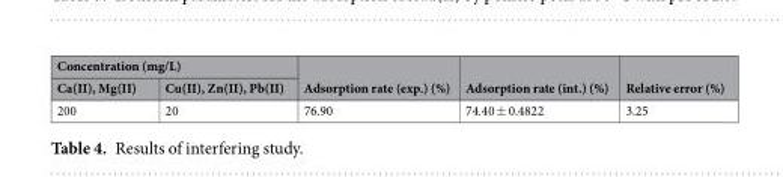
<table><thead><tr><td colspan="2">Concentration (mg/L)</td><td rowspan="2">Adsorption rate (exp.) (%)</td><td rowspan="2">Adsorption rate (int.) (%)</td><td rowspan="2">Relative error (%)</td></tr><tr><td>Ca(II), Mg(II)</td><td>Cu(II), Zn(II), Pb(II)</td></tr></thead><tbody><tr><td>200</td><td>20</td><td>76.90</td><td>74.40 ± 0.4822</td><td>3.25</td></tr></tbody></table>